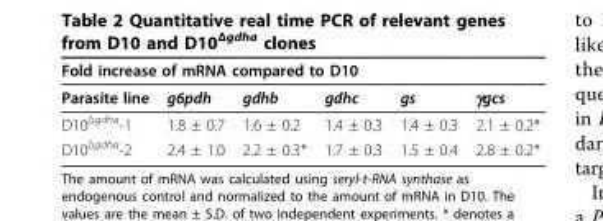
<table><thead><tr><td colspan="6">Fold increase of mRNA compared to D10</td></tr><tr><td>Parasite line</td><td>g6pdh</td><td>gdhb</td><td>gdhc</td><td>gs</td><td>γgcs</td></tr></thead><tbody><tr><td>D10<sup>Δgdha</sup>-1</td><td>1.8 ± 0.7</td><td>1.6 ± 0.2</td><td>1.4 ± 0.3</td><td>1.4 ± 0.3</td><td>2.1 ± 0.2*</td></tr><tr><td>D10<sup>Δgdha</sup>-2</td><td>2.4 ± 1.0</td><td>2.2 ± 0.3*</td><td>1.7 ± 0.3</td><td>1.5 ± 0.4</td><td>2.8 ± 0.2*</td></tr></tbody></table>